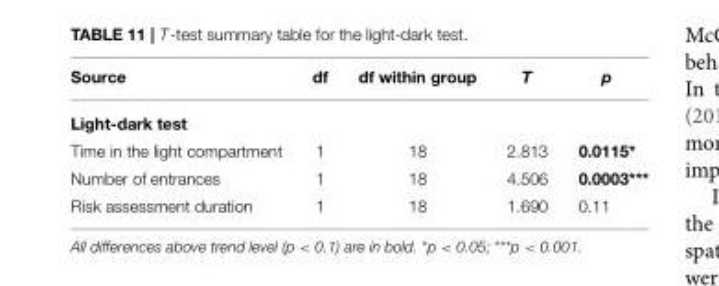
<table><thead><tr><td>Source</td><td>df</td><td>df within group</td><td>T</td><td>p</td></tr></thead><tbody><tr><td colspan="5">Light-dark test</td></tr><tr><td>Time in the light compartment</td><td>1</td><td>18</td><td>2.813</td><td>0.0115*</td></tr><tr><td>Number of entrances</td><td>1</td><td>18</td><td>4.506</td><td>0.0003***</td></tr><tr><td>Risk assessment duration</td><td>1</td><td>18</td><td>1.690</td><td>0.11</td></tr></tbody></table>